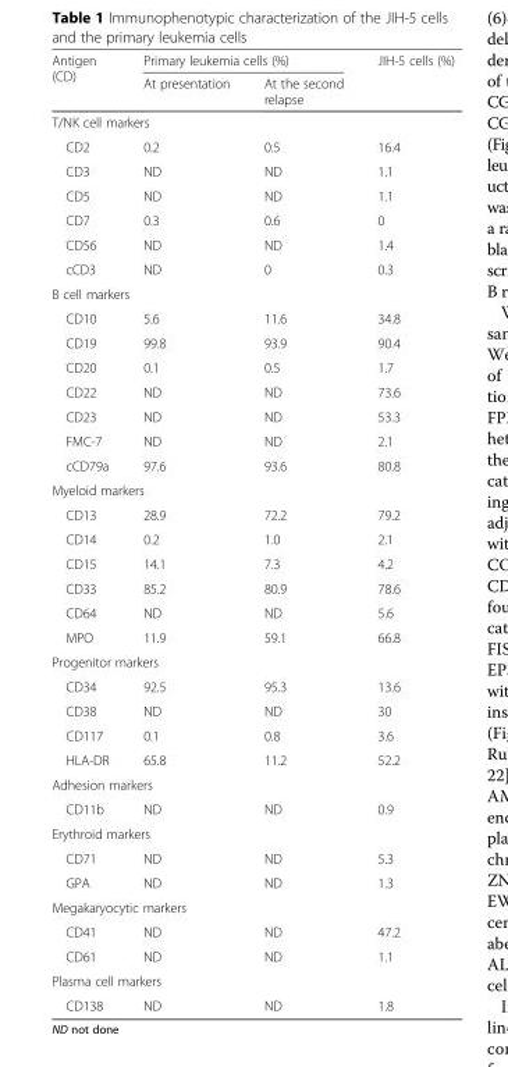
<table><thead><tr><td rowspan="2">Antigen (CD)</td><td colspan="2">Primary leukemia cells (%)</td><td rowspan="2">JIH-5 cells (%)</td></tr><tr><td>At presentation</td><td>At the second relapse</td></tr></thead><tbody><tr><td colspan="4">T/NK cell markers</td></tr><tr><td>CD2</td><td>0.2</td><td>0.5</td><td>16.4</td></tr><tr><td>CD3</td><td>ND</td><td>ND</td><td>1.1</td></tr><tr><td>CD5</td><td>ND</td><td>ND</td><td>1.1</td></tr><tr><td>CD7</td><td>0.3</td><td>0.6</td><td>0</td></tr><tr><td>CD56</td><td>ND</td><td>ND</td><td>1.4</td></tr><tr><td>cCD3</td><td>ND</td><td>0</td><td>0.3</td></tr><tr><td colspan="4">B cell markers</td></tr><tr><td>CD10</td><td>5.6</td><td>11.6</td><td>34.8</td></tr><tr><td>CD19</td><td>99.8</td><td>93.9</td><td>90.4</td></tr><tr><td>CD20</td><td>0.1</td><td>0.5</td><td>1.7</td></tr><tr><td>CD22</td><td>ND</td><td>ND</td><td>73.6</td></tr><tr><td>CD23</td><td>ND</td><td>ND</td><td>53.3</td></tr><tr><td>FMC-7</td><td>ND</td><td>ND</td><td>2.1</td></tr><tr><td>cCD79a</td><td>97.6</td><td>93.6</td><td>80.8</td></tr><tr><td colspan="4">Myeloid markers</td></tr><tr><td>CD13</td><td>28.9</td><td>72.2</td><td>79.2</td></tr><tr><td>CD14</td><td>0.2</td><td>1.0</td><td>2.1</td></tr><tr><td>CD15</td><td>14.1</td><td>7.3</td><td>4.2</td></tr><tr><td>CD33</td><td>85.2</td><td>80.9</td><td>78.6</td></tr><tr><td>CD64</td><td>ND</td><td>ND</td><td>5.6</td></tr><tr><td>MPO</td><td>11.9</td><td>59.1</td><td>66.8</td></tr><tr><td colspan="4">Progenitor markers</td></tr><tr><td>CD34</td><td>92.5</td><td>95.3</td><td>13.6</td></tr><tr><td>CD38</td><td>ND</td><td>ND</td><td>30</td></tr><tr><td>CD117</td><td>0.1</td><td>0.8</td><td>3.6</td></tr><tr><td>HLA-DR</td><td>65.8</td><td>11.2</td><td>52.2</td></tr><tr><td colspan="4">Adhesion markers</td></tr><tr><td>CD11b</td><td>ND</td><td>ND</td><td>0.9</td></tr><tr><td colspan="4">Erythroid markers</td></tr><tr><td>CD71</td><td>ND</td><td>ND</td><td>5.3</td></tr><tr><td>GPA</td><td>ND</td><td>ND</td><td>1.3</td></tr><tr><td colspan="4">Megakaryocytic markers</td></tr><tr><td>CD41</td><td>ND</td><td>ND</td><td>47.2</td></tr><tr><td>CD61</td><td>ND</td><td>ND</td><td>1.1</td></tr><tr><td colspan="4">Plasma cell markers</td></tr><tr><td>CD138</td><td>ND</td><td>ND</td><td>1.8</td></tr></tbody></table>